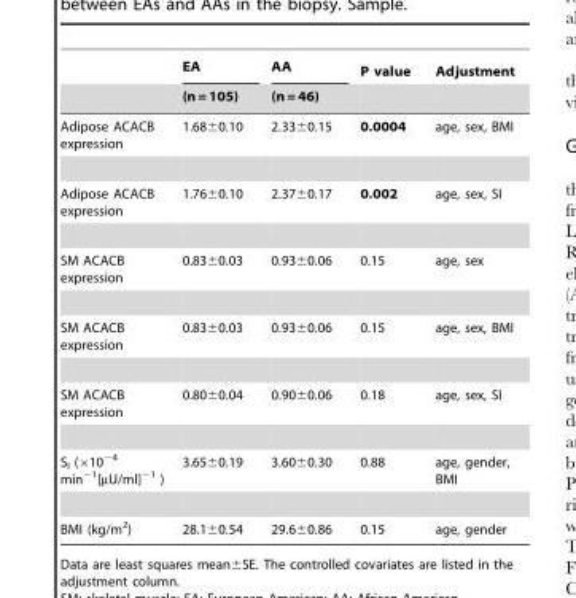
<table><thead><tr><td rowspan="2"></td><td rowspan="2">EA (n = 105)</td><td rowspan="2">AA (n = 46)</td><td rowspan="2">P value</td><td rowspan="2">Adjustment</td></tr><tr></tr></thead><tbody><tr><td>Adipose ACACB expression</td><td>1.68±0.10</td><td>2.33±0.15</td><td>0.0004</td><td>age, sex, BMI</td></tr><tr><td>Adipose ACACB expression</td><td>1.76±0.10</td><td>2.37±0.17</td><td>0.002</td><td>age, sex, SI</td></tr><tr><td>SM ACACB expression</td><td>0.83±0.03</td><td>0.93±0.06</td><td>0.15</td><td>age, sex</td></tr><tr><td>SM ACACB expression</td><td>0.83±0.03</td><td>0.93±0.06</td><td>0.15</td><td>age, sex, BMI</td></tr><tr><td>SM ACACB expression</td><td>0.80±0.04</td><td>0.90±0.06</td><td>0.18</td><td>age, sex, SI</td></tr><tr><td>S<sub>I</sub> (×10<sup>−4</sup> min<sup>−1</sup>[µU/ml]<sup>−1</sup> )</td><td>3.65±0.19</td><td>3.60±0.30</td><td>0.88</td><td>age, gender, BMI</td></tr><tr><td>BMI (kg/m<sup>2</sup>)</td><td>28.1±0.54</td><td>29.6±0.86</td><td>0.15</td><td>age, gender</td></tr></tbody></table>